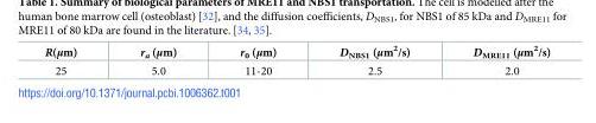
<table><thead><tr><td>R(μm)</td><td>r<sub>a</sub> (μm)</td><td>r<sub>0</sub> (μm)</td><td>D<sub>NBS1</sub> (μm<sup>2</sup>/s)</td><td>D<sub>MRE11</sub> (μm<sup>2</sup>/s)</td></tr></thead><tbody><tr><td>25</td><td>5.0</td><td>11-20</td><td>2.5</td><td>2.0</td></tr></tbody></table>